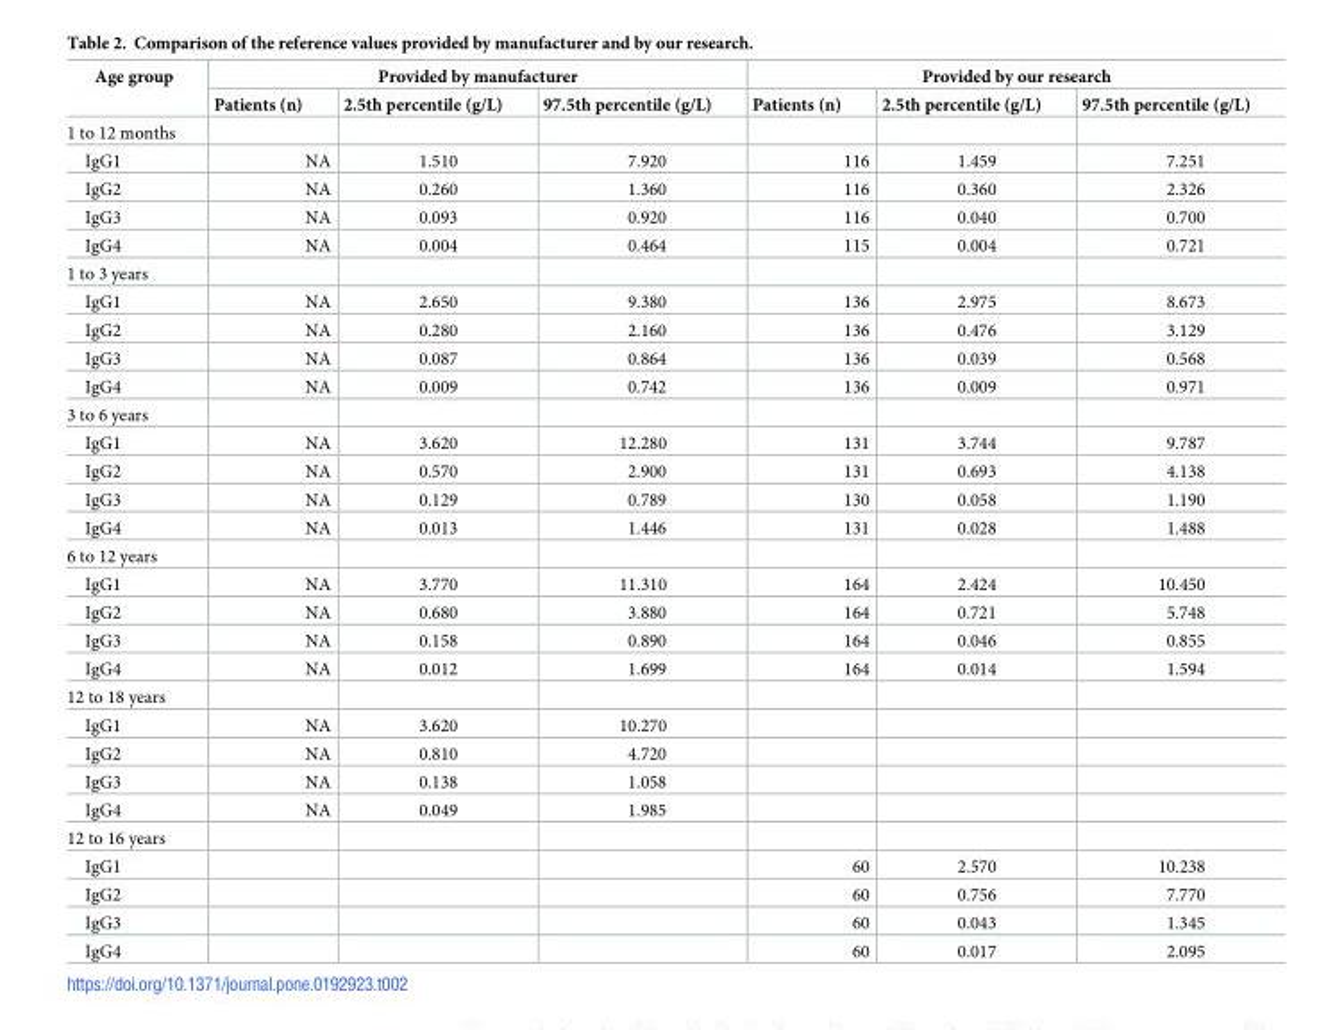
<table><thead><tr><td rowspan="2">Age group</td><td colspan="3">Provided by manufacturer</td><td colspan="3">Provided by our research</td></tr><tr><td>Patients (n)</td><td>2.5th percentile (g/L)</td><td>97.5th percentile (g/L)</td><td>Patients (n)</td><td>2.5th percentile (g/L)</td><td>97.5th percentile (g/L)</td></tr></thead><tbody><tr><td colspan="7">1 to 12 months</td></tr><tr><td>IgG1</td><td>NA</td><td>1.510</td><td>7.920</td><td>116</td><td>1.459</td><td>7.251</td></tr><tr><td>IgG2</td><td>NA</td><td>0.260</td><td>1.360</td><td>116</td><td>0.360</td><td>2.326</td></tr><tr><td>IgG3</td><td>NA</td><td>0.093</td><td>0.920</td><td>116</td><td>0.040</td><td>0.700</td></tr><tr><td>IgG4</td><td>NA</td><td>0.004</td><td>0.464</td><td>115</td><td>0.004</td><td>0.721</td></tr><tr><td colspan="7">1 to 3 years</td></tr><tr><td>IgG1</td><td>NA</td><td>2.650</td><td>9.380</td><td>136</td><td>2.975</td><td>8.673</td></tr><tr><td>IgG2</td><td>NA</td><td>0.280</td><td>2.160</td><td>136</td><td>0.476</td><td>3.129</td></tr><tr><td>IgG3</td><td>NA</td><td>0.087</td><td>0.864</td><td>136</td><td>0.039</td><td>0.568</td></tr><tr><td>IgG4</td><td>NA</td><td>0.009</td><td>0.742</td><td>136</td><td>0.009</td><td>0.971</td></tr><tr><td colspan="7">3 to 6 years</td></tr><tr><td>IgG1</td><td>NA</td><td>3.620</td><td>12.280</td><td>131</td><td>3.744</td><td>9.787</td></tr><tr><td>IgG2</td><td>NA</td><td>0.570</td><td>2.900</td><td>131</td><td>0.693</td><td>4.138</td></tr><tr><td>IgG3</td><td>NA</td><td>0.129</td><td>0.789</td><td>130</td><td>0.058</td><td>1.190</td></tr><tr><td>IgG4</td><td>NA</td><td>0.013</td><td>1.446</td><td>131</td><td>0.028</td><td>1.488</td></tr><tr><td colspan="7">6 to 12 years</td></tr><tr><td>IgG1</td><td>NA</td><td>3.770</td><td>11.310</td><td>164</td><td>2.424</td><td>10.450</td></tr><tr><td>IgG2</td><td>NA</td><td>0.680</td><td>3.880</td><td>164</td><td>0.721</td><td>5.748</td></tr><tr><td>IgG3</td><td>NA</td><td>0.158</td><td>0.890</td><td>164</td><td>0.046</td><td>0.855</td></tr><tr><td>IgG4</td><td>NA</td><td>0.012</td><td>1.699</td><td>164</td><td>0.014</td><td>1.594</td></tr><tr><td colspan="7">12 to 18 years</td></tr><tr><td>IgG1</td><td>NA</td><td>3.620</td><td>10.270</td><td></td><td></td><td></td></tr><tr><td>IgG2</td><td>NA</td><td>0.810</td><td>4.720</td><td></td><td></td><td></td></tr><tr><td>IgG3</td><td>NA</td><td>0.138</td><td>1.058</td><td></td><td></td><td></td></tr><tr><td>IgG4</td><td>NA</td><td>0.049</td><td>1.985</td><td></td><td></td><td></td></tr><tr><td colspan="7">12 to 16 years</td></tr><tr><td>IgG1</td><td></td><td></td><td></td><td>60</td><td>2.570</td><td>10.238</td></tr><tr><td>IgG2</td><td></td><td></td><td></td><td>60</td><td>0.756</td><td>7.770</td></tr><tr><td>IgG3</td><td></td><td></td><td></td><td>60</td><td>0.043</td><td>1.345</td></tr><tr><td>IgG4</td><td></td><td></td><td></td><td>60</td><td>0.017</td><td>2.095</td></tr></tbody></table>